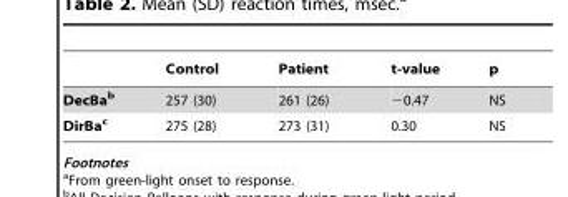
<table><thead><tr><td></td><td>Control</td><td>Patient</td><td>t-value</td><td>p</td></tr></thead><tbody><tr><td>DecBab</td><td>257 (30)</td><td>261 (26)</td><td>−0.47</td><td>NS</td></tr><tr><td>DirBac</td><td>275 (28)</td><td>273 (31)</td><td>0.30</td><td>NS</td></tr></tbody></table>